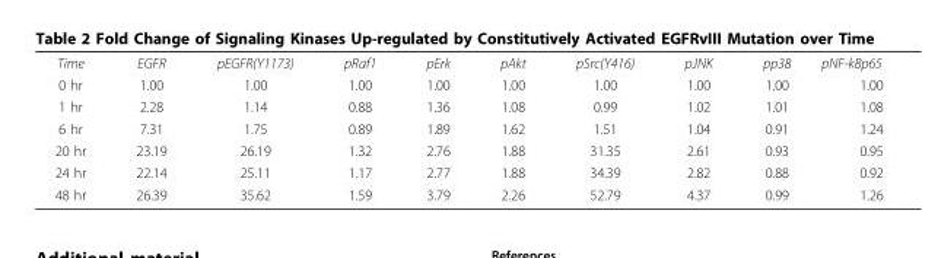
<table><tbody><tr><td>Time</td><td>EGFR</td><td>pEGFR(Y1173)</td><td>pRaf1</td><td>pErk</td><td>pAkt</td><td>pSrc(Y416)</td><td>pJNK</td><td>pp38</td><td>pNF-kBp65</td></tr><tr><td>0 hr</td><td>1.00</td><td>1.00</td><td>1.00</td><td>1.00</td><td>1.00</td><td>1.00</td><td>1.00</td><td>1.00</td><td>1.00</td></tr><tr><td>1 hr</td><td>2.28</td><td>1.14</td><td>0.88</td><td>1.36</td><td>1.08</td><td>0.99</td><td>1.02</td><td>1.01</td><td>1.08</td></tr><tr><td>6 hr</td><td>7.31</td><td>1.75</td><td>0.89</td><td>1.89</td><td>1.62</td><td>1.51</td><td>1.04</td><td>0.91</td><td>1.24</td></tr><tr><td>20 hr</td><td>23.19</td><td>26.19</td><td>1.32</td><td>2.76</td><td>1.88</td><td>31.35</td><td>2.61</td><td>0.93</td><td>0.95</td></tr><tr><td>24 hr</td><td>22.14</td><td>25.11</td><td>1.17</td><td>2.77</td><td>1.88</td><td>34.39</td><td>2.82</td><td>0.88</td><td>0.92</td></tr><tr><td>48 hr</td><td>26.39</td><td>35.62</td><td>1.59</td><td>3.79</td><td>2.26</td><td>52.79</td><td>4.37</td><td>0.99</td><td>1.26</td></tr></tbody></table>